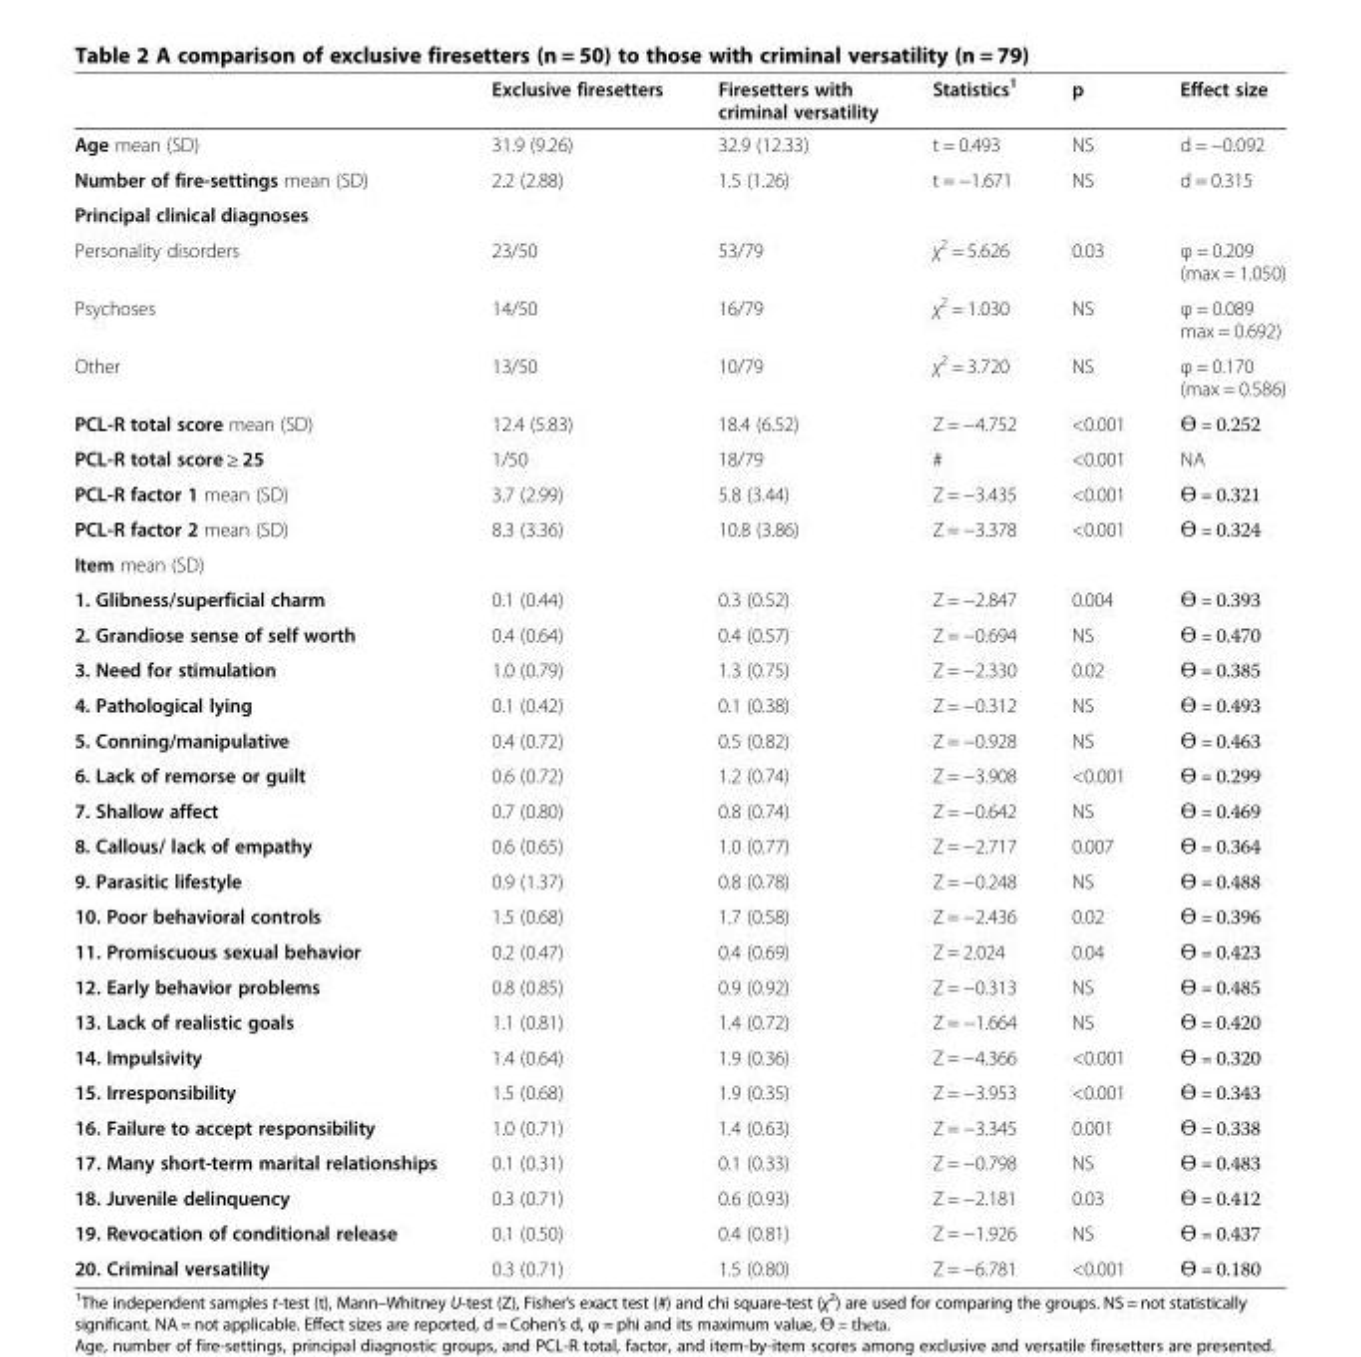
<table><thead><tr><td></td><td>Exclusive firesetters</td><td>Firesetters with criminal versatility</td><td>Statistics<sup>1</sup></td><td>p</td><td>Effect size</td></tr></thead><tbody><tr><td>Age mean (SD)</td><td>31.9 (9.26)</td><td>32.9 (12.33)</td><td>t = 0.493</td><td>NS</td><td>d = −0.092</td></tr><tr><td>Number of fire-settings mean (SD)</td><td>2.2 (2.88)</td><td>1.5 (1.26)</td><td>t = −1.671</td><td>NS</td><td>d = 0.315</td></tr><tr><td colspan="6">Principal clinical diagnoses</td></tr><tr><td>Personality disorders</td><td>23/50</td><td>53/79</td><td>χ<sup>2</sup> = 5.626</td><td>0.03</td><td>φ = 0.209 (max = 1.050)</td></tr><tr><td>Psychoses</td><td>14/50</td><td>16/79</td><td>χ<sup>2</sup> = 1.030</td><td>NS</td><td>φ = 0.089 max = 0.692)</td></tr><tr><td>Other</td><td>13/50</td><td>10/79</td><td>χ<sup>2</sup> = 3.720</td><td>NS</td><td>φ = 0.170 (max = 0.586)</td></tr><tr><td>PCL-R total score mean (SD)</td><td>12.4 (5.83)</td><td>18.4 (6.52)</td><td>Z = −4.752</td><td>&lt;0.001</td><td>ϴ = 0.252</td></tr><tr><td>PCL-R total score ≥ 25</td><td>1/50</td><td>18/79</td><td>#</td><td>&lt;0.001</td><td>NA</td></tr><tr><td>PCL-R factor 1 mean (SD)</td><td>3.7 (2.99)</td><td>5.8 (3.44)</td><td>Z = −3.435</td><td>&lt;0.001</td><td>ϴ = 0.321</td></tr><tr><td>PCL-R factor 2 mean (SD)</td><td>8.3 (3.36)</td><td>10.8 (3.86)</td><td>Z = −3.378</td><td>&lt;0.001</td><td>ϴ = 0.324</td></tr><tr><td colspan="6">Item mean (SD)</td></tr><tr><td>1. Glibness/superficial charm</td><td>0.1 (0.44)</td><td>0.3 (0.52)</td><td>Z = −2.847</td><td>0.004</td><td>ϴ = 0.393</td></tr><tr><td>2. Grandiose sense of self worth</td><td>0.4 (0.64)</td><td>0.4 (0.57)</td><td>Z = −0.694</td><td>NS</td><td>ϴ = 0.470</td></tr><tr><td>3. Need for stimulation</td><td>1.0 (0.79)</td><td>1.3 (0.75)</td><td>Z = −2.330</td><td>0.02</td><td>ϴ = 0.385</td></tr><tr><td>4. Pathological lying</td><td>0.1 (0.42)</td><td>0.1 (0.38)</td><td>Z = −0.312</td><td>NS</td><td>ϴ = 0.493</td></tr><tr><td>5. Conning/manipulative</td><td>0.4 (0.72)</td><td>0.5 (0.82)</td><td>Z = −0.928</td><td>NS</td><td>ϴ = 0.463</td></tr><tr><td>6. Lack of remorse or guilt</td><td>0.6 (0.72)</td><td>1.2 (0.74)</td><td>Z = −3.908</td><td>&lt;0.001</td><td>ϴ = 0.299</td></tr><tr><td>7. Shallow affect</td><td>0.7 (0.80)</td><td>0.8 (0.74)</td><td>Z = −0.642</td><td>NS</td><td>ϴ = 0.469</td></tr><tr><td>8. Callous/ lack of empathy</td><td>0.6 (0.65)</td><td>1.0 (0.77)</td><td>Z = −2.717</td><td>0.007</td><td>ϴ = 0.364</td></tr><tr><td>9. Parasitic lifestyle</td><td>0.9 (1.37)</td><td>0.8 (0.78)</td><td>Z = −0.248</td><td>NS</td><td>ϴ = 0.488</td></tr><tr><td>10. Poor behavioral controls</td><td>1.5 (0.68)</td><td>1.7 (0.58)</td><td>Z = −2.436</td><td>0.02</td><td>ϴ = 0.396</td></tr><tr><td>11. Promiscuous sexual behavior</td><td>0.2 (0.47)</td><td>0.4 (0.69)</td><td>Z = 2.024</td><td>0.04</td><td>ϴ = 0.423</td></tr><tr><td>12. Early behavior problems</td><td>0.8 (0.85)</td><td>0.9 (0.92)</td><td>Z = −0.313</td><td>NS</td><td>ϴ = 0.485</td></tr><tr><td>13. Lack of realistic goals</td><td>1.1 (0.81)</td><td>1.4 (0.72)</td><td>Z = −1.664</td><td>NS</td><td>ϴ = 0.420</td></tr><tr><td>14. Impulsivity</td><td>1.4 (0.64)</td><td>1.9 (0.36)</td><td>Z = −4.366</td><td>&lt;0.001</td><td>ϴ = 0.320</td></tr><tr><td>15. Irresponsibility</td><td>1.5 (0.68)</td><td>1.9 (0.35)</td><td>Z = −3.953</td><td>&lt;0.001</td><td>ϴ = 0.343</td></tr><tr><td>16. Failure to accept responsibility</td><td>1.0 (0.71)</td><td>1.4 (0.63)</td><td>Z = −3.345</td><td>0.001</td><td>ϴ = 0.338</td></tr><tr><td>17. Many short-term marital relationships</td><td>0.1 (0.31)</td><td>0.1 (0.33)</td><td>Z = −0.798</td><td>NS</td><td>ϴ = 0.483</td></tr><tr><td>18. Juvenile delinquency</td><td>0.3 (0.71)</td><td>0.6 (0.93)</td><td>Z = −2.181</td><td>0.03</td><td>ϴ = 0.412</td></tr><tr><td>19. Revocation of conditional release</td><td>0.1 (0.50)</td><td>0.4 (0.81)</td><td>Z = −1.926</td><td>NS</td><td>ϴ = 0.437</td></tr><tr><td>20. Criminal versatility</td><td>0.3 (0.71)</td><td>1.5 (0.80)</td><td>Z = −6.781</td><td>&lt;0.001</td><td>ϴ = 0.180</td></tr></tbody></table>